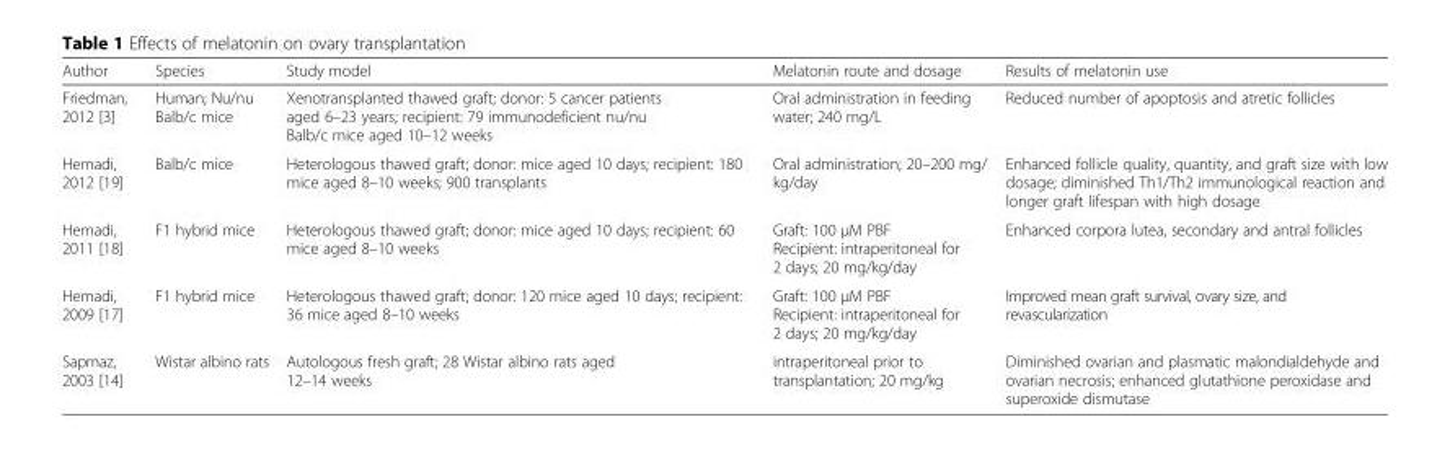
<table><thead><tr><td>Author</td><td>Species</td><td>Study model</td><td>Melatonin route and dosage</td><td>Results of melatonin use</td></tr></thead><tbody><tr><td>Friedman, 2012 [3]</td><td>Human; Nu/nu Balb/c mice</td><td>Xenotransplanted thawed graft; donor: 5 cancer patients aged 6–23 years; recipient: 79 immunodeficient nu/nu Balb/c mice aged 10–12 weeks</td><td>Oral administration in feeding water; 240 mg/L</td><td>Reduced number of apoptosis and atretic follicles</td></tr><tr><td>Hemadi, 2012 [19]</td><td>Balb/c mice</td><td>Heterologous thawed graft; donor: mice aged 10 days; recipient: 180 mice aged 8–10 weeks; 900 transplants</td><td>Oral administration; 20–200 mg/ kg/day</td><td>Enhanced follicle quality, quantity, and graft size with low dosage; diminished Th1/Th2 immunological reaction and longer graft lifespan with high dosage</td></tr><tr><td>Hemadi, 2011 [18]</td><td>F1 hybrid mice</td><td>Heterologous thawed graft; donor: mice aged 10 days; recipient: 60 mice aged 8–10 weeks</td><td>Graft: 100 μM PBF Recipient: intraperitoneal for 2 days; 20 mg/kg/day</td><td>Enhanced corpora lutea, secondary and antral follicles</td></tr><tr><td>Hemadi, 2009 [17]</td><td>F1 hybrid mice</td><td>Heterologous thawed graft; donor: 120 mice aged 10 days; recipient: 36 mice aged 8–10 weeks</td><td>Graft: 100 μM PBF Recipient: intraperitoneal for 2 days; 20 mg/kg/day</td><td>Improved mean graft survival, ovary size, and revascularization</td></tr><tr><td>Sapmaz, 2003 [14]</td><td>Wistar albino rats</td><td>Autologous fresh graft; 28 Wistar albino rats aged 12–14 weeks</td><td>intraperitoneal prior to transplantation; 20 mg/kg</td><td>Diminished ovarian and plasmatic malondialdehyde and ovarian necrosis; enhanced glutathione peroxidase and superoxide dismutase</td></tr></tbody></table>